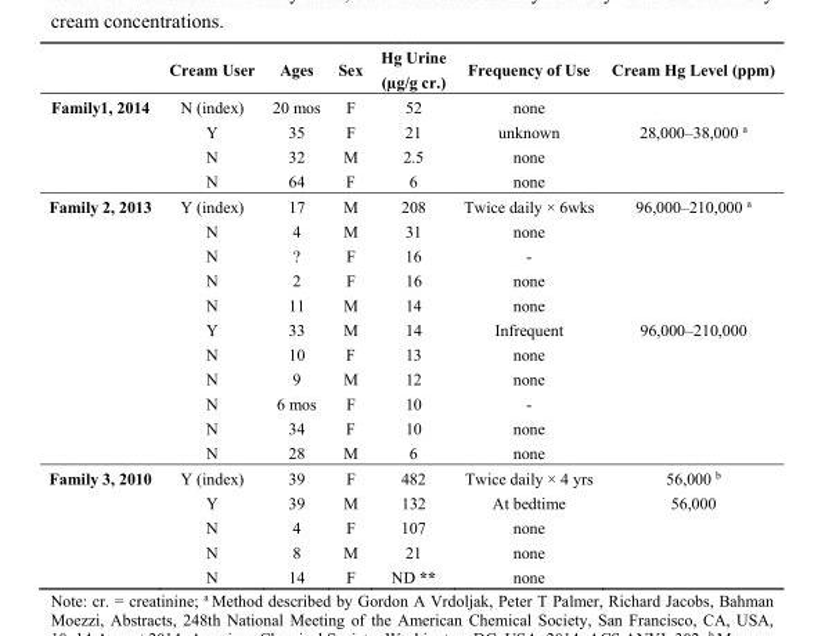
<table><thead><tr><td></td><td>Cream User</td><td>Ages</td><td>Sex</td><td>Hg Urine (µg/g cr.)</td><td>Frequency of Use</td><td>Cream Hg Level (ppm)</td></tr></thead><tbody><tr><td rowspan="4">Family1, 2014</td><td>N (index)</td><td>20 mos</td><td>F</td><td>52</td><td>none</td><td></td></tr><tr><td>Y</td><td>35</td><td>F</td><td>21</td><td>unknown</td><td>28,000–38,000 <sup>a</sup></td></tr><tr><td>N</td><td>32</td><td>M</td><td>2.5</td><td>none</td><td></td></tr><tr><td>N</td><td>64</td><td>F</td><td>6</td><td>none</td><td></td></tr><tr><td rowspan="11">Family 2, 2013</td><td>Y (index)</td><td>17</td><td>M</td><td>208</td><td>Twice daily × 6wks</td><td>96,000–210,000 <sup>a</sup></td></tr><tr><td>N</td><td>4</td><td>M</td><td>31</td><td>none</td><td></td></tr><tr><td>N</td><td>?</td><td>F</td><td>16</td><td>-</td><td></td></tr><tr><td>N</td><td>2</td><td>F</td><td>16</td><td>none</td><td></td></tr><tr><td>N</td><td>11</td><td>M</td><td>14</td><td>none</td><td></td></tr><tr><td>Y</td><td>33</td><td>M</td><td>14</td><td>Infrequent</td><td>96,000–210,000</td></tr><tr><td>N</td><td>10</td><td>F</td><td>13</td><td>none</td><td></td></tr><tr><td>N</td><td>9</td><td>M</td><td>12</td><td>none</td><td></td></tr><tr><td>N</td><td>6 mos</td><td>F</td><td>10</td><td>-</td><td></td></tr><tr><td>N</td><td>34</td><td>F</td><td>10</td><td>none</td><td></td></tr><tr><td>N</td><td>28</td><td>M</td><td>6</td><td>none</td><td></td></tr><tr><td rowspan="5">Family 3, 2010</td><td>Y (index)</td><td>39</td><td>F</td><td>482</td><td>Twice daily × 4 yrs</td><td>56,000 <sup>b</sup></td></tr><tr><td>Y</td><td>39</td><td>M</td><td>132</td><td>At bedtime</td><td>56,000</td></tr><tr><td>N</td><td>4</td><td>F</td><td>107</td><td>none</td><td></td></tr><tr><td>N</td><td>8</td><td>M</td><td>21</td><td>none</td><td></td></tr><tr><td>N</td><td>14</td><td>F</td><td>ND **</td><td>none</td><td></td></tr></tbody></table>